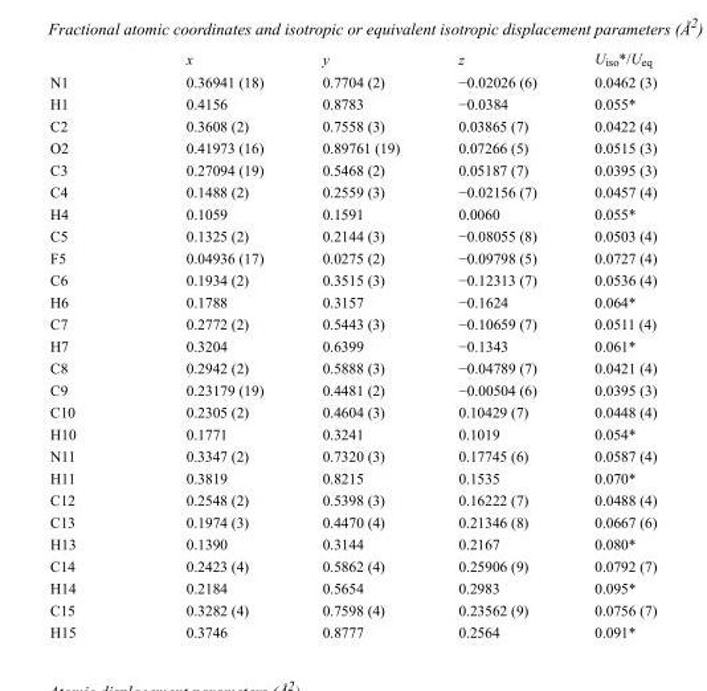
<table><thead><tr><td></td><td>x</td><td>y</td><td>z</td><td>U<sub>iso</sub>*/U<sub>eq</sub></td></tr></thead><tbody><tr><td>N1</td><td>0.36941 (18)</td><td>0.7704 (2)</td><td>−0.02026 (6)</td><td>0.0462 (3)</td></tr><tr><td>H1</td><td>0.4156</td><td>0.8783</td><td>−0.0384</td><td>0.055*</td></tr><tr><td>C2</td><td>0.3608 (2)</td><td>0.7558 (3)</td><td>0.03865 (7)</td><td>0.0422 (4)</td></tr><tr><td>O2</td><td>0.41973 (16)</td><td>0.89761 (19)</td><td>0.07266 (5)</td><td>0.0515 (3)</td></tr><tr><td>C3</td><td>0.27094 (19)</td><td>0.5468 (2)</td><td>0.05187 (7)</td><td>0.0395 (3)</td></tr><tr><td>C4</td><td>0.1488 (2)</td><td>0.2559 (3)</td><td>−0.02156 (7)</td><td>0.0457 (4)</td></tr><tr><td>H4</td><td>0.1059</td><td>0.1591</td><td>0.0060</td><td>0.055*</td></tr><tr><td>C5</td><td>0.1325 (2)</td><td>0.2144 (3)</td><td>−0.08055 (8)</td><td>0.0503 (4)</td></tr><tr><td>F5</td><td>0.04936 (17)</td><td>0.0275 (2)</td><td>−0.09798 (5)</td><td>0.0727 (4)</td></tr><tr><td>C6</td><td>0.1934 (2)</td><td>0.3515 (3)</td><td>−0.12313 (7)</td><td>0.0536 (4)</td></tr><tr><td>H6</td><td>0.1788</td><td>0.3157</td><td>−0.1624</td><td>0.064*</td></tr><tr><td>C7</td><td>0.2772 (2)</td><td>0.5443 (3)</td><td>−0.10659 (7)</td><td>0.0511 (4)</td></tr><tr><td>H7</td><td>0.3204</td><td>0.6399</td><td>−0.1343</td><td>0.061*</td></tr><tr><td>C8</td><td>0.2942 (2)</td><td>0.5888 (3)</td><td>−0.04789 (7)</td><td>0.0421 (4)</td></tr><tr><td>C9</td><td>0.23179 (19)</td><td>0.4481 (2)</td><td>−0.00504 (6)</td><td>0.0395 (3)</td></tr><tr><td>C10</td><td>0.2305 (2)</td><td>0.4604 (3)</td><td>0.10429 (7)</td><td>0.0448 (4)</td></tr><tr><td>H10</td><td>0.1771</td><td>0.3241</td><td>0.1019</td><td>0.054*</td></tr><tr><td>N11</td><td>0.3347 (2)</td><td>0.7320 (3)</td><td>0.17745 (6)</td><td>0.0587 (4)</td></tr><tr><td>H11</td><td>0.3819</td><td>0.8215</td><td>0.1535</td><td>0.070*</td></tr><tr><td>C12</td><td>0.2548 (2)</td><td>0.5398 (3)</td><td>0.16222 (7)</td><td>0.0488 (4)</td></tr><tr><td>C13</td><td>0.1974 (3)</td><td>0.4470 (4)</td><td>0.21346 (8)</td><td>0.0667 (6)</td></tr><tr><td>H13</td><td>0.1390</td><td>0.3144</td><td>0.2167</td><td>0.080*</td></tr><tr><td>C14</td><td>0.2423 (4)</td><td>0.5862 (4)</td><td>0.25906 (9)</td><td>0.0792 (7)</td></tr><tr><td>H14</td><td>0.2184</td><td>0.5654</td><td>0.2983</td><td>0.095*</td></tr><tr><td>C15</td><td>0.3282 (4)</td><td>0.7598 (4)</td><td>0.23562 (9)</td><td>0.0756 (7)</td></tr><tr><td>H15</td><td>0.3746</td><td>0.8777</td><td>0.2564</td><td>0.091*</td></tr></tbody></table>